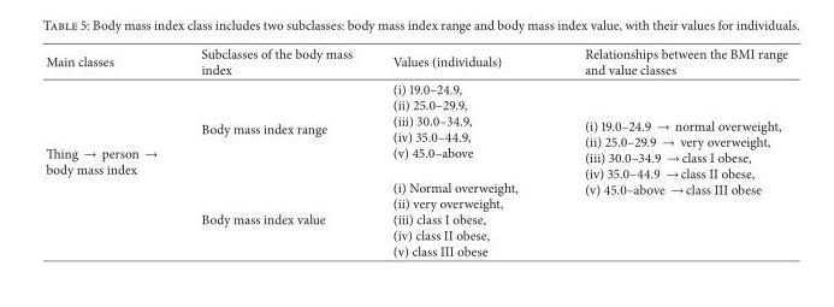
<table><thead><tr><td>Main classes</td><td>Subclasses of the body mass index</td><td>Values (individuals)</td><td>Relationships between the BMI range and value classes</td></tr></thead><tbody><tr><td rowspan="2">Thing → person → body mass index</td><td>Body mass index range</td><td>(i) 19.0–24.9, (ii) 25.0–29.9, (iii) 30.0–34.9, (iv) 35.0–44.9, (v) 45.0–above</td><td rowspan="2">(i) 19.0–24.9 → normal overweight, (ii) 25.0–29.9 → very overweight, (iii) 30.0–34.9 → class I obese, (iv) 35.0–44.9 → class II obese, (v) 45.0–above → class III obese</td></tr><tr><td>Body mass index value</td><td>(i) Normal overweight, (ii) very overweight, (iii) class I obese, (iv) class II obese, (v) class III obese</td></tr></tbody></table>